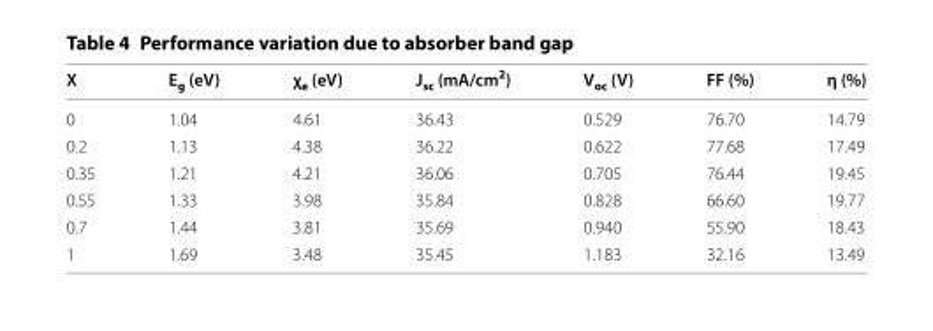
<table><thead><tr><td>X</td><td>E<sub>g</sub> (eV)</td><td>χ<sub>e</sub> (eV)</td><td>J<sub>sc</sub> (mA/cm<sup>2</sup>)</td><td>V<sub>oc</sub> (V)</td><td>FF (%)</td><td>η (%)</td></tr></thead><tbody><tr><td>0</td><td>1.04</td><td>4.61</td><td>36.43</td><td>0.529</td><td>76.70</td><td>14.79</td></tr><tr><td>0.2</td><td>1.13</td><td>4.38</td><td>36.22</td><td>0.622</td><td>77.68</td><td>17.49</td></tr><tr><td>0.35</td><td>1.21</td><td>4.21</td><td>36.06</td><td>0.705</td><td>76.44</td><td>19.45</td></tr><tr><td>0.55</td><td>1.33</td><td>3.98</td><td>35.84</td><td>0.828</td><td>66.60</td><td>19.77</td></tr><tr><td>0.7</td><td>1.44</td><td>3.81</td><td>35.69</td><td>0.940</td><td>55.90</td><td>18.43</td></tr><tr><td>1</td><td>1.69</td><td>3.48</td><td>35.45</td><td>1.183</td><td>32.16</td><td>13.49</td></tr></tbody></table>